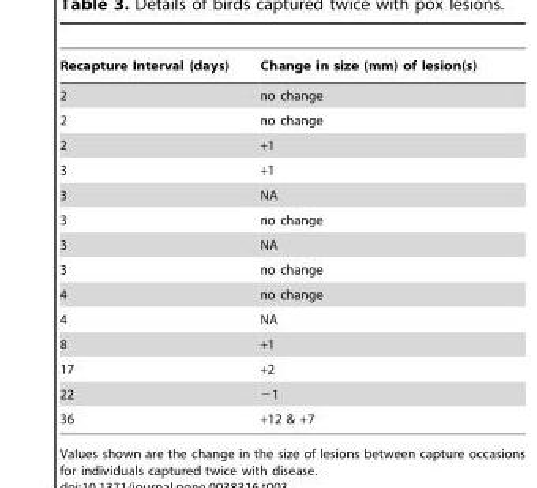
<table><thead><tr><td>Recapture Interval (days)</td><td>Change in size (mm) of lesion(s)</td></tr></thead><tbody><tr><td>2</td><td>no change</td></tr><tr><td>2</td><td>no change</td></tr><tr><td>2</td><td>+1</td></tr><tr><td>3</td><td>+1</td></tr><tr><td>3</td><td>NA</td></tr><tr><td>3</td><td>no change</td></tr><tr><td>3</td><td>NA</td></tr><tr><td>3</td><td>no change</td></tr><tr><td>4</td><td>no change</td></tr><tr><td>4</td><td>NA</td></tr><tr><td>8</td><td>+1</td></tr><tr><td>17</td><td>+2</td></tr><tr><td>22</td><td>−1</td></tr><tr><td>36</td><td>+12 &amp; +7</td></tr></tbody></table>